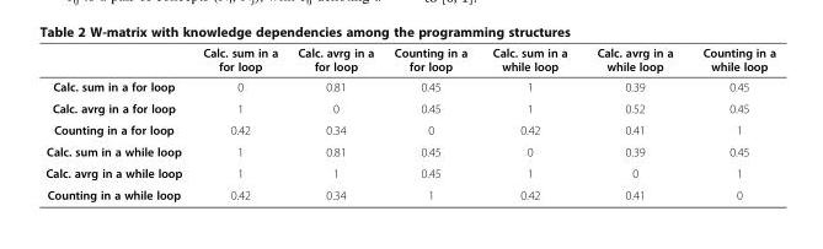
<table><thead><tr><td></td><td>Calc. sum in a for loop</td><td>Calc. avrg in a for loop</td><td>Counting in a for loop</td><td>Calc. sum in a while loop</td><td>Calc. avrg in a while loop</td><td>Counting in a while loop</td></tr></thead><tbody><tr><td>Calc. sum in a for loop</td><td>0</td><td>0.81</td><td>0.45</td><td>1</td><td>0.39</td><td>0.45</td></tr><tr><td>Calc. avrg in a for loop</td><td>1</td><td>0</td><td>0.45</td><td>1</td><td>0.52</td><td>0.45</td></tr><tr><td>Counting in a for loop</td><td>0.42</td><td>0.34</td><td>0</td><td>0.42</td><td>0.41</td><td>1</td></tr><tr><td>Calc. sum in a while loop</td><td>1</td><td>0.81</td><td>0.45</td><td>0</td><td>0.39</td><td>0.45</td></tr><tr><td>Calc. avrg in a while loop</td><td>1</td><td>1</td><td>0.45</td><td>1</td><td>0</td><td>1</td></tr><tr><td>Counting in a while loop</td><td>0.42</td><td>0.34</td><td>1</td><td>0.42</td><td>0.41</td><td>0</td></tr></tbody></table>